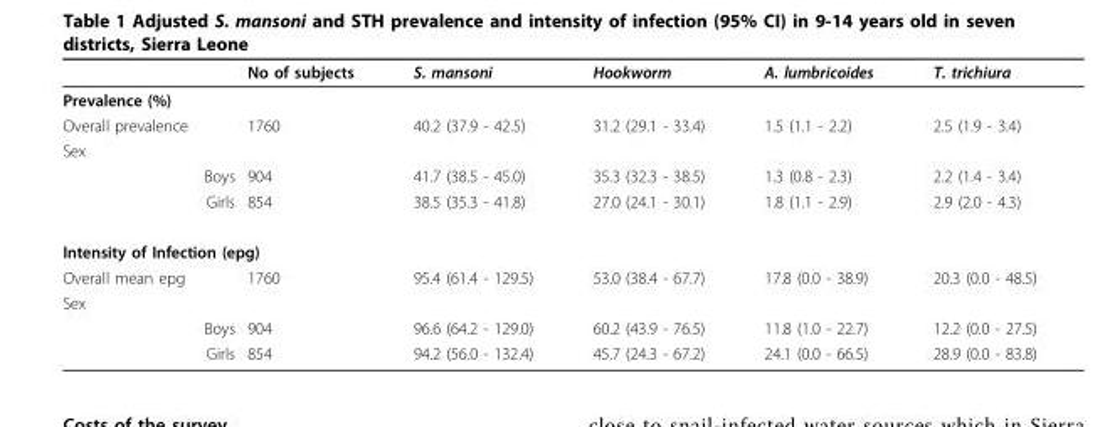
<table><thead><tr><td></td><td>No of subjects</td><td>S. mansoni</td><td>Hookworm</td><td>A. lumbricoides</td><td>T. trichiura</td></tr></thead><tbody><tr><td colspan="6">Prevalence (%)</td></tr><tr><td>Overall prevalence</td><td>1760</td><td>40.2 (37.9 - 42.5)</td><td>31.2 (29.1 - 33.4)</td><td>1.5 (1.1 - 2.2)</td><td>2.5 (1.9 - 3.4)</td></tr><tr><td colspan="6">Sex</td></tr><tr><td>Boys</td><td>904</td><td>41.7 (38.5 - 45.0)</td><td>35.3 (32.3 - 38.5)</td><td>1.3 (0.8 - 2.3)</td><td>2.2 (1.4 - 3.4)</td></tr><tr><td>Girls</td><td>854</td><td>38.5 (35.3 - 41.8)</td><td>27.0 (24.1 - 30.1)</td><td>1.8 (1.1 - 2.9)</td><td>2.9 (2.0 - 4.3)</td></tr><tr><td colspan="6">Intensity of Infection (epg)</td></tr><tr><td>Overall mean epg</td><td>1760</td><td>95.4 (61.4 - 129.5)</td><td>53.0 (38.4 - 67.7)</td><td>17.8 (0.0 - 38.9)</td><td>20.3 (0.0 - 48.5)</td></tr><tr><td colspan="6">Sex</td></tr><tr><td>Boys</td><td>904</td><td>96.6 (64.2 - 129.0)</td><td>60.2 (43.9 - 76.5)</td><td>11.8 (1.0 - 22.7)</td><td>12.2 (0.0 - 27.5)</td></tr><tr><td>Girls</td><td>854</td><td>94.2 (56.0 - 132.4)</td><td>45.7 (24.3 - 67.2)</td><td>24.1 (0.0 - 66.5)</td><td>28.9 (0.0 - 83.8)</td></tr></tbody></table>